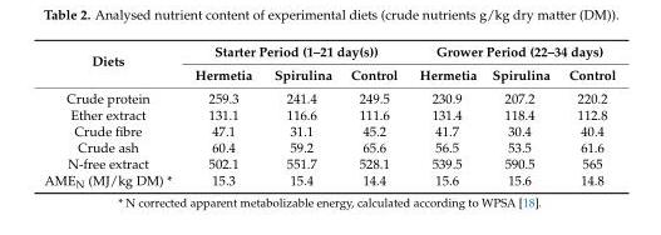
<table><thead><tr><td rowspan="2">Diets</td><td colspan="3">Starter Period (1–21 day(s))</td><td colspan="3">Grower Period (22–34 days)</td></tr><tr><td>Hermetia</td><td>Spirulina</td><td>Control</td><td>Hermetia</td><td>Spirulina</td><td>Control</td></tr></thead><tbody><tr><td>Crude protein</td><td>259.3</td><td>241.4</td><td>249.5</td><td>230.9</td><td>207.2</td><td>220.2</td></tr><tr><td>Ether extract</td><td>131.1</td><td>116.6</td><td>111.6</td><td>131.4</td><td>118.4</td><td>112.8</td></tr><tr><td>Crude fibre</td><td>47.1</td><td>31.1</td><td>45.2</td><td>41.7</td><td>30.4</td><td>40.4</td></tr><tr><td>Crude ash</td><td>60.4</td><td>59.2</td><td>65.6</td><td>56.5</td><td>53.5</td><td>61.6</td></tr><tr><td>N-free extract</td><td>502.1</td><td>551.7</td><td>528.1</td><td>539.5</td><td>590.5</td><td>565</td></tr><tr><td>AME<sub>N</sub> (MJ/kg DM) *</td><td>15.3</td><td>15.4</td><td>14.4</td><td>15.6</td><td>15.6</td><td>14.8</td></tr></tbody></table>